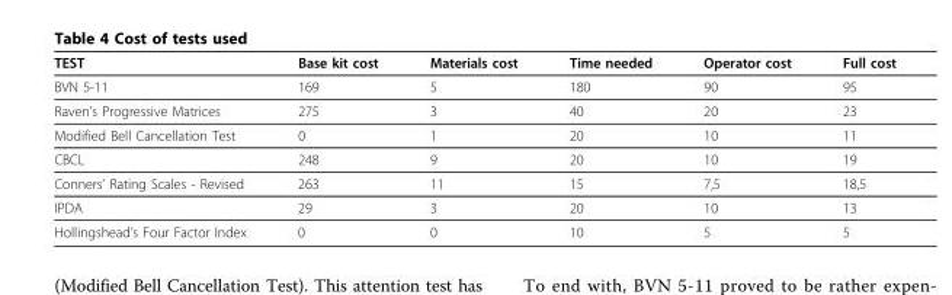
<table><thead><tr><td>TEST</td><td>Base kit cost</td><td>Materials cost</td><td>Time needed</td><td>Operator cost</td><td>Full cost</td></tr></thead><tbody><tr><td>BVN 5-11</td><td>169</td><td>5</td><td>180</td><td>90</td><td>95</td></tr><tr><td>Raven’s Progressive Matrices</td><td>275</td><td>3</td><td>40</td><td>20</td><td>23</td></tr><tr><td>Modified Bell Cancellation Test</td><td>0</td><td>1</td><td>20</td><td>10</td><td>11</td></tr><tr><td>CBCL</td><td>248</td><td>9</td><td>20</td><td>10</td><td>19</td></tr><tr><td>Conners’ Rating Scales - Revised</td><td>263</td><td>11</td><td>15</td><td>7,5</td><td>18,5</td></tr><tr><td>IPDA</td><td>29</td><td>3</td><td>20</td><td>10</td><td>13</td></tr><tr><td>Hollingshead’s Four Factor Index</td><td>0</td><td>0</td><td>10</td><td>5</td><td>5</td></tr></tbody></table>